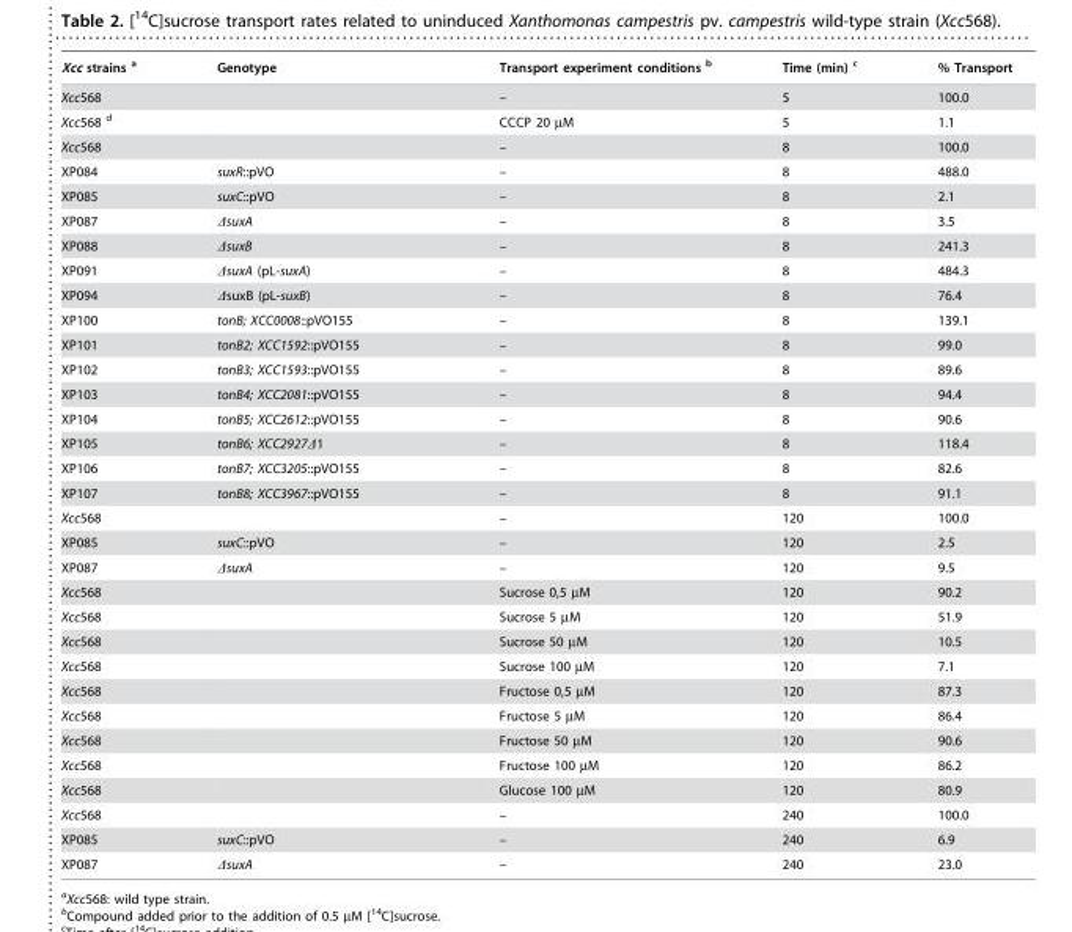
<table><thead><tr><td>Xcc strains a</td><td>Genotype</td><td>Transport experiment conditions b</td><td>Time (min) c</td><td>% Transport</td></tr></thead><tbody><tr><td>Xcc568</td><td></td><td>–</td><td>5</td><td>100.0</td></tr><tr><td>Xcc568 d</td><td></td><td>CCCP 20 µM</td><td>5</td><td>1.1</td></tr><tr><td>Xcc568</td><td></td><td>–</td><td>8</td><td>100.0</td></tr><tr><td>XP084</td><td>suxR::pVO</td><td>–</td><td>8</td><td>488.0</td></tr><tr><td>XP085</td><td>suxC::pVO</td><td>–</td><td>8</td><td>2.1</td></tr><tr><td>XP087</td><td>ΔsuxA</td><td>–</td><td>8</td><td>3.5</td></tr><tr><td>XP088</td><td>ΔsuxB</td><td>–</td><td>8</td><td>241.3</td></tr><tr><td>XP091</td><td>ΔsuxA (pL-suxA)</td><td>–</td><td>8</td><td>484.3</td></tr><tr><td>XP094</td><td>ΔsuxB (pL-suxB)</td><td>–</td><td>8</td><td>76.4</td></tr><tr><td>XP100</td><td>tonB; XCC0008::pVO155</td><td>–</td><td>8</td><td>139.1</td></tr><tr><td>XP101</td><td>tonB2; XCC1592::pVO155</td><td>–</td><td>8</td><td>99.0</td></tr><tr><td>XP102</td><td>tonB3; XCC1593::pVO155</td><td>–</td><td>8</td><td>89.6</td></tr><tr><td>XP103</td><td>tonB4; XCC2081::pVO155</td><td>–</td><td>8</td><td>94.4</td></tr><tr><td>XP104</td><td>tonB5; XCC2612::pVO155</td><td>–</td><td>8</td><td>90.6</td></tr><tr><td>XP105</td><td>tonB6; XCC2927Δ1</td><td>–</td><td>8</td><td>118.4</td></tr><tr><td>XP106</td><td>tonB7; XCC3205::pVO155</td><td>–</td><td>8</td><td>82.6</td></tr><tr><td>XP107</td><td>tonB8; XCC3967::pVO155</td><td>–</td><td>8</td><td>91.1</td></tr><tr><td>Xcc568</td><td></td><td>–</td><td>120</td><td>100.0</td></tr><tr><td>XP085</td><td>suxC::pVO</td><td>–</td><td>120</td><td>2.5</td></tr><tr><td>XP087</td><td>ΔsuxA</td><td>–</td><td>120</td><td>9.5</td></tr><tr><td>Xcc568</td><td></td><td>Sucrose 0,5 µM</td><td>120</td><td>90.2</td></tr><tr><td>Xcc568</td><td></td><td>Sucrose 5 µM</td><td>120</td><td>51.9</td></tr><tr><td>Xcc568</td><td></td><td>Sucrose 50 µM</td><td>120</td><td>10.5</td></tr><tr><td>Xcc568</td><td></td><td>Sucrose 100 µM</td><td>120</td><td>7.1</td></tr><tr><td>Xcc568</td><td></td><td>Fructose 0,5 µM</td><td>120</td><td>87.3</td></tr><tr><td>Xcc568</td><td></td><td>Fructose 5 µM</td><td>120</td><td>86.4</td></tr><tr><td>Xcc568</td><td></td><td>Fructose 50 µM</td><td>120</td><td>90.6</td></tr><tr><td>Xcc568</td><td></td><td>Fructose 100 µM</td><td>120</td><td>86.2</td></tr><tr><td>Xcc568</td><td></td><td>Glucose 100 µM</td><td>120</td><td>80.9</td></tr><tr><td>Xcc568</td><td></td><td>–</td><td>240</td><td>100.0</td></tr><tr><td>XP085</td><td>suxC::pVO</td><td>–</td><td>240</td><td>6.9</td></tr><tr><td>XP087</td><td>ΔsuxA</td><td>–</td><td>240</td><td>23.0</td></tr></tbody></table>